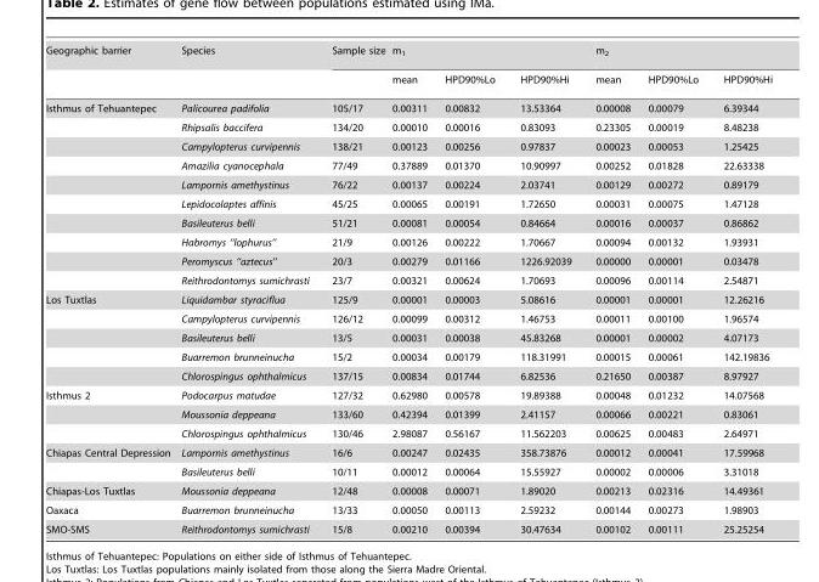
<table><tbody><tr><td rowspan="2">Geographic barrier</td><td>Species</td><td>Sample size</td><td colspan="3">m<sub>1</sub></td><td colspan="3">m<sub>2</sub></td></tr><tr><td></td><td></td><td>mean</td><td>HPD90%Lo</td><td>HPD90%Hi</td><td>mean</td><td>HPD90%Lo</td><td>HPD90%Hi</td></tr><tr><td rowspan="10">Isthmus of Tehuantepec</td><td>Palicourea padifolia</td><td>105/17</td><td>0.00311</td><td>0.00832</td><td>13.53364</td><td>0.00008</td><td>0.00079</td><td>6.39344</td></tr><tr><td>Rhipsalis baccifera</td><td>134/20</td><td>0.00010</td><td>0.00016</td><td>0.83093</td><td>0.23305</td><td>0.00019</td><td>8.48238</td></tr><tr><td>Campylopterus curvipennis</td><td>138/21</td><td>0.00123</td><td>0.00256</td><td>0.97837</td><td>0.00023</td><td>0.00053</td><td>1.25425</td></tr><tr><td>Amazilia cyanocephala</td><td>77/49</td><td>0.37889</td><td>0.01370</td><td>10.90997</td><td>0.00252</td><td>0.01828</td><td>22.63338</td></tr><tr><td>Lampornis amethystinus</td><td>76/22</td><td>0.00137</td><td>0.00224</td><td>2.03741</td><td>0.00129</td><td>0.00272</td><td>0.89179</td></tr><tr><td>Lepidocolaptes affinis</td><td>45/25</td><td>0.00065</td><td>0.00191</td><td>1.72650</td><td>0.00031</td><td>0.00075</td><td>1.47128</td></tr><tr><td>Basileuterus belli</td><td>51/21</td><td>0.00081</td><td>0.00054</td><td>0.84664</td><td>0.00016</td><td>0.00037</td><td>0.86862</td></tr><tr><td>Habromys ‘‘lophurus’’</td><td>21/9</td><td>0.00126</td><td>0.00222</td><td>1.70667</td><td>0.00094</td><td>0.00132</td><td>1.93931</td></tr><tr><td>Peromyscus ‘‘aztecus’’</td><td>20/3</td><td>0.00279</td><td>0.01166</td><td>1226.92039</td><td>0.00000</td><td>0.00001</td><td>0.03478</td></tr><tr><td>Reithrodontomys sumichrasti</td><td>23/7</td><td>0.00321</td><td>0.00624</td><td>1.70693</td><td>0.00096</td><td>0.00114</td><td>2.54871</td></tr><tr><td rowspan="5">Los Tuxtlas</td><td>Liquidambar styraciflua</td><td>125/9</td><td>0.00001</td><td>0.00003</td><td>5.08616</td><td>0.00001</td><td>0.00001</td><td>12.26216</td></tr><tr><td>Campylopterus curvipennis</td><td>126/12</td><td>0.00099</td><td>0.00312</td><td>1.46753</td><td>0.00011</td><td>0.00100</td><td>1.96574</td></tr><tr><td>Basileuterus belli</td><td>13/5</td><td>0.00031</td><td>0.00038</td><td>45.83268</td><td>0.00001</td><td>0.00002</td><td>4.07173</td></tr><tr><td>Buarremon brunneinucha</td><td>15/2</td><td>0.00034</td><td>0.00179</td><td>118.31991</td><td>0.00015</td><td>0.00061</td><td>142.19836</td></tr><tr><td>Chlorospingus ophthalmicus</td><td>137/15</td><td>0.00834</td><td>0.01744</td><td>6.82536</td><td>0.21650</td><td>0.00387</td><td>8.97927</td></tr><tr><td rowspan="3">Isthmus 2</td><td>Podocarpus matudae</td><td>127/32</td><td>0.62980</td><td>0.00578</td><td>19.89388</td><td>0.00048</td><td>0.01232</td><td>14.07568</td></tr><tr><td>Moussonia deppeana</td><td>133/60</td><td>0.42394</td><td>0.01399</td><td>2.41157</td><td>0.00066</td><td>0.00221</td><td>0.83061</td></tr><tr><td>Chlorospingus ophthalmicus</td><td>130/46</td><td>2.98087</td><td>0.56167</td><td>11.562203</td><td>0.00625</td><td>0.00483</td><td>2.64971</td></tr><tr><td rowspan="2">Chiapas Central Depression</td><td>Lampornis amethystinus</td><td>16/6</td><td>0.00247</td><td>0.02435</td><td>358.73876</td><td>0.00012</td><td>0.00041</td><td>17.59968</td></tr><tr><td>Basileuterus belli</td><td>10/11</td><td>0.00012</td><td>0.00064</td><td>15.55927</td><td>0.00002</td><td>0.00006</td><td>3.31018</td></tr><tr><td>Chiapas-Los Tuxtlas</td><td>Moussonia deppeana</td><td>12/48</td><td>0.00008</td><td>0.00071</td><td>1.89020</td><td>0.00213</td><td>0.02316</td><td>14.49361</td></tr><tr><td>Oaxaca</td><td>Buarremon brunneinucha</td><td>13/33</td><td>0.00050</td><td>0.00113</td><td>2.59232</td><td>0.00144</td><td>0.00273</td><td>1.98903</td></tr><tr><td>SMO-SMS</td><td>Reithrodontomys sumichrasti</td><td>15/8</td><td>0.00210</td><td>0.00394</td><td>30.47634</td><td>0.00102</td><td>0.00111</td><td>25.25254</td></tr></tbody></table>